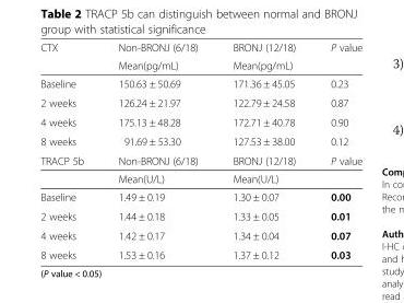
<table><thead><tr><td rowspan="2">CTX</td><td rowspan="2">Non-BRONJ (6/18) Mean(pg/mL)</td><td rowspan="2">BRONJ (12/18) Mean(pg/mL)</td><td rowspan="2">P value</td></tr><tr></tr></thead><tbody><tr><td>Baseline</td><td>150.63 ± 50.69</td><td>171.36 ± 45.05</td><td>0.23</td></tr><tr><td>2 weeks</td><td>126.24 ± 21.97</td><td>122.79 ± 24.58</td><td>0.87</td></tr><tr><td>4 weeks</td><td>175.13 ± 48.28</td><td>172.71 ± 40.78</td><td>0.90</td></tr><tr><td>8 weeks</td><td>91.69 ± 53.30</td><td>127.53 ± 38.00</td><td>0.12</td></tr><tr><td rowspan="2">TRACP 5b</td><td>Non-BRONJ (6/18)</td><td>BRONJ (12/18)</td><td>P value</td></tr><tr><td>Mean(U/L)</td><td>Mean(U/L)</td><td></td></tr><tr><td>Baseline</td><td>1.49 ± 0.19</td><td>1.30 ± 0.07</td><td>0.00</td></tr><tr><td>2 weeks</td><td>1.44 ± 0.18</td><td>1.33 ± 0.05</td><td>0.01</td></tr><tr><td>4 weeks</td><td>1.42 ± 0.17</td><td>1.34 ± 0.04</td><td>0.07</td></tr><tr><td>8 weeks</td><td>1.53 ± 0.16</td><td>1.37 ± 0.12</td><td>0.03</td></tr></tbody></table>